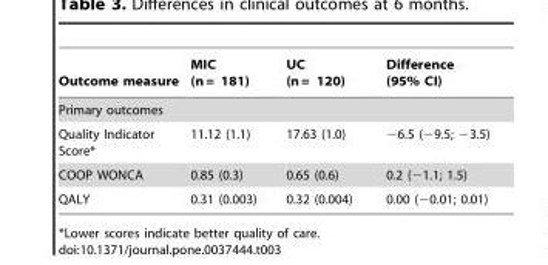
<table><thead><tr><td>Outcome measure</td><td>MIC (n = 181)</td><td>UC (n = 120)</td><td>Difference (95% CI)</td></tr></thead><tbody><tr><td colspan="4">Primary outcomes</td></tr><tr><td>Quality Indicator Score*</td><td>11.12 (1.1)</td><td>17.63 (1.0)</td><td>−6.5 (−9.5; −3.5)</td></tr><tr><td>COOP WONCA</td><td>0.85 (0.3)</td><td>0.65 (0.6)</td><td>0.2 (−1.1; 1.5)</td></tr><tr><td>QALY</td><td>0.31 (0.003)</td><td>0.32 (0.004)</td><td>0.00 (−0.01; 0.01)</td></tr></tbody></table>